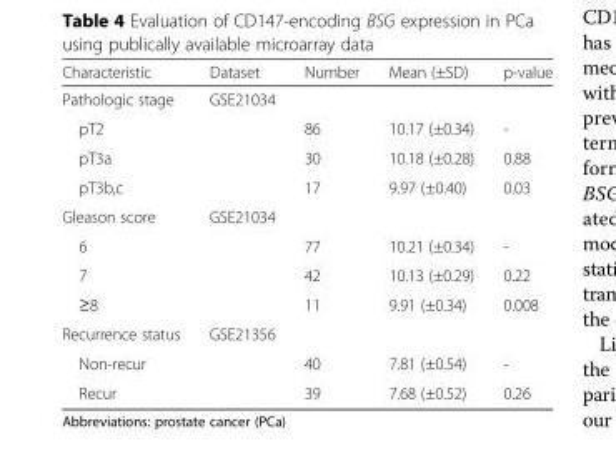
<table><thead><tr><td>Characteristic</td><td>Dataset</td><td>Number</td><td>Mean (±SD)</td><td>p-value</td></tr></thead><tbody><tr><td>Pathologic stage</td><td>GSE21034</td><td></td><td></td><td></td></tr><tr><td>pT2</td><td></td><td>86</td><td>10.17 (±0.34)</td><td>-</td></tr><tr><td>pT3a</td><td></td><td>30</td><td>10.18 (±0.28)</td><td>0.88</td></tr><tr><td>pT3b,c</td><td></td><td>17</td><td>9.97 (±0.40)</td><td>0.03</td></tr><tr><td>Gleason score</td><td>GSE21034</td><td></td><td></td><td></td></tr><tr><td>6</td><td></td><td>77</td><td>10.21 (±0.34)</td><td>-</td></tr><tr><td>7</td><td></td><td>42</td><td>10.13 (±0.29)</td><td>0.22</td></tr><tr><td>≥8</td><td></td><td>11</td><td>9.91 (±0.34)</td><td>0.008</td></tr><tr><td>Recurrence status</td><td>GSE21356</td><td></td><td></td><td></td></tr><tr><td>Non-recur</td><td></td><td>40</td><td>7.81 (±0.54)</td><td>-</td></tr><tr><td>Recur</td><td></td><td>39</td><td>7.68 (±0.52)</td><td>0.26</td></tr></tbody></table>